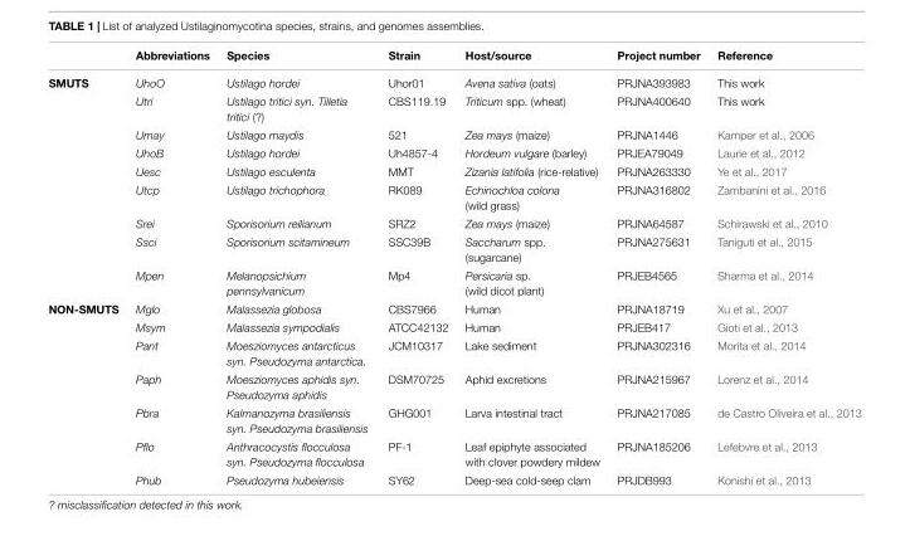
<table><thead><tr><td></td><td>Abbreviations</td><td>Species</td><td>Strain</td><td>Host/source</td><td>Project number</td><td>Reference</td></tr></thead><tbody><tr><td rowspan="9">SMUTS</td><td>UhoO</td><td>Ustilago hordei</td><td>Uhor01</td><td>Avena sativa (oats)</td><td>PRJNA393983</td><td>This work</td></tr><tr><td>Utri</td><td>Ustilago tritici syn. Tilletia tritici (?)</td><td>CBS119.19</td><td>Triticum spp. (wheat)</td><td>PRJNA400640</td><td>This work</td></tr><tr><td>Umay</td><td>Ustilago maydis</td><td>521</td><td>Zea mays (maize)</td><td>PRJNA1446</td><td>Kamper et al., 2006</td></tr><tr><td>UhoB</td><td>Ustilago hordei</td><td>Uh4857-4</td><td>Hordeum vulgare (barley)</td><td>PRJEA79049</td><td>Laurie et al., 2012</td></tr><tr><td>Uesc</td><td>Ustilago esculenta</td><td>MMT</td><td>Zizania latifolia (rice-relative)</td><td>PRJNA263330</td><td>Ye et al., 2017</td></tr><tr><td>Utcp</td><td>Ustilago trichophora</td><td>RK089</td><td>Echinochloa colona (wild grass)</td><td>PRJNA316802</td><td>Zambanini et al., 2016</td></tr><tr><td>Srei</td><td>Sporisorium reilianum</td><td>SRZ2</td><td>Zea mays (maize)</td><td>PRJNA64587</td><td>Schirawski et al., 2010</td></tr><tr><td>Ssci</td><td>Sporisorium scitamineum</td><td>SSC39B</td><td>Saccharum spp. (sugarcane)</td><td>PRJNA275631</td><td>Taniguti et al., 2015</td></tr><tr><td>Mpen</td><td>Melanopsichium pennsylvanicum</td><td>Mp4</td><td>Persicaria sp. (wild dicot plant)</td><td>PRJEB4565</td><td>Sharma et al., 2014</td></tr><tr><td rowspan="7">NON-SMUTS</td><td>Mglo</td><td>Malassezia globosa</td><td>CBS7966</td><td>Human</td><td>PRJNA18719</td><td>Xu et al., 2007</td></tr><tr><td>Msym</td><td>Malassezia sympodialis</td><td>ATCC42132</td><td>Human</td><td>PRJEB417</td><td>Gioti et al., 2013</td></tr><tr><td>Pant</td><td>Moesziomyces antarcticus syn. Pseudozyma antarctica.</td><td>JCM10317</td><td>Lake sediment</td><td>PRJNA302316</td><td>Morita et al., 2014</td></tr><tr><td>Paph</td><td>Moesziomyces aphidis syn. Pseudozyma aphidis</td><td>DSM70725</td><td>Aphid excretions</td><td>PRJNA215967</td><td>Lorenz et al., 2014</td></tr><tr><td>Pbra</td><td>Kalmanozyma brasiliensis syn. Pseudozyma brasiliensis</td><td>GHG001</td><td>Larva intestinal tract</td><td>PRJNA217085</td><td>de Castro Oliveira et al., 2013</td></tr><tr><td>Pflo</td><td>Anthracocystis flocculosa syn. Pseudozyma flocculosa</td><td>PF-1</td><td>Leaf epiphyte associated with clover powdery mildew</td><td>PRJNA185206</td><td>Lefebvre et al., 2013</td></tr><tr><td>Phub</td><td>Pseudozyma hubeiensis</td><td>SY62</td><td>Deep-sea cold-seep clam</td><td>PRJDB993</td><td>Konishi et al., 2013</td></tr></tbody></table>